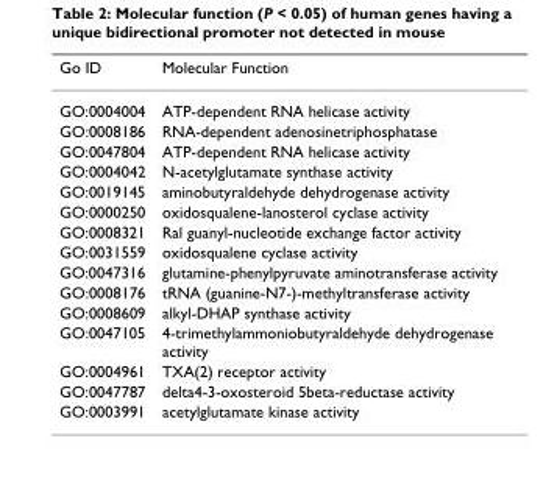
<table><thead><tr><td>Go ID</td><td>Molecular Function</td></tr></thead><tbody><tr><td>GO:0004004</td><td>ATP-dependent RNA helicase activity</td></tr><tr><td>GO:0008186</td><td>RNA-dependent adenosinetriphosphatase</td></tr><tr><td>GO:0047804</td><td>ATP-dependent RNA helicase activity</td></tr><tr><td>GO:0004042</td><td>N-acetylglutamate synthase activity</td></tr><tr><td>GO:0019145</td><td>aminobutyraldehyde dehydrogenase activity</td></tr><tr><td>GO:0000250</td><td>oxidosqualene-lanosterol cyclase activity</td></tr><tr><td>GO:0008321</td><td>Ral guanyl-nucleotide exchange factor activity</td></tr><tr><td>GO:0031559</td><td>oxidosqualene cyclase activity</td></tr><tr><td>GO:0047316</td><td>glutamine-phenylpyruvate aminotransferase activity</td></tr><tr><td>GO:0008176</td><td>tRNA (guanine-N7-)-methyltransferase activity</td></tr><tr><td>GO:0008609</td><td>alkyl-DHAP synthase activity</td></tr><tr><td>GO:0047105</td><td>4-trimethylammoniobutyraldehyde dehydrogenase activity</td></tr><tr><td>GO:0004961</td><td>TXA(2) receptor activity</td></tr><tr><td>GO:0047787</td><td>delta4-3-oxosteroid 5beta-reductase activity</td></tr><tr><td>GO:0003991</td><td>acetylglutamate kinase activity</td></tr></tbody></table>